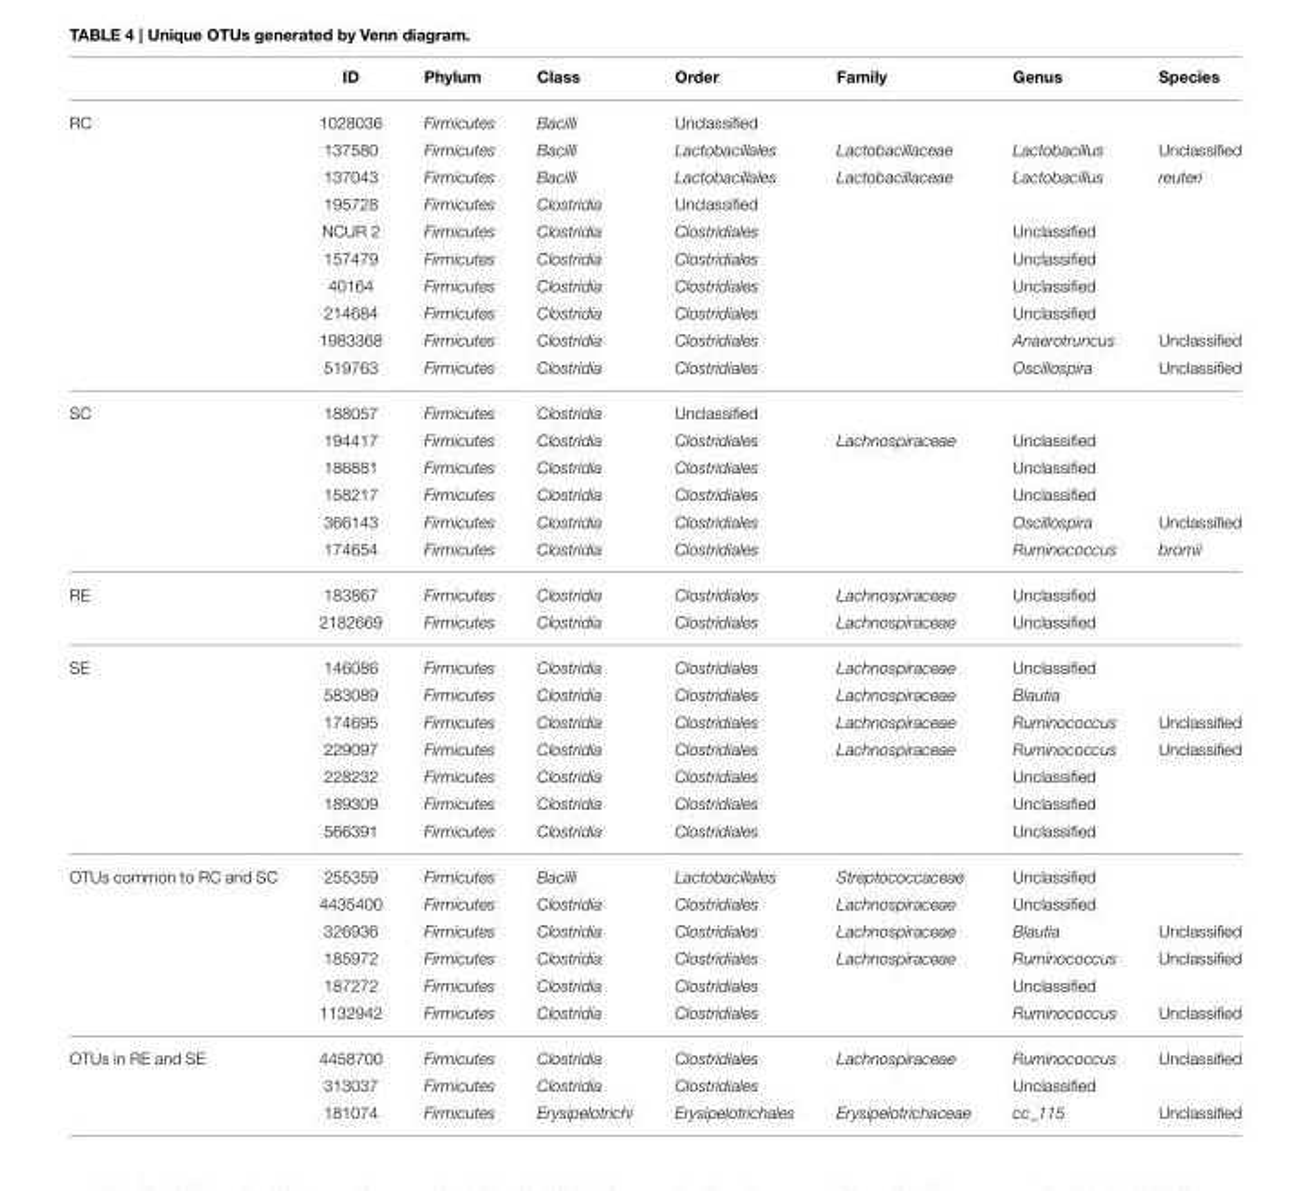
<table><thead><tr><td></td><td>ID</td><td>Phylum</td><td>Class</td><td>Order</td><td>Family</td><td>Genus</td><td>Species</td></tr></thead><tbody><tr><td rowspan="10">RC</td><td>1028036</td><td>Firmicutes</td><td>Bacilli</td><td>Unclassified</td><td></td><td></td><td></td></tr><tr><td>137580</td><td>Firmicutes</td><td>Bacilli</td><td>Lactobacillales</td><td>Lactobacillaceae</td><td>Lactobacillus</td><td>Unclassified</td></tr><tr><td>137043</td><td>Firmicutes</td><td>Bacilli</td><td>Lactobacillales</td><td>Lactobacillaceae</td><td>Lactobacillus</td><td>reuteri</td></tr><tr><td>195728</td><td>Firmicutes</td><td>Clostridia</td><td>Unclassified</td><td></td><td></td><td></td></tr><tr><td>NCUR 2</td><td>Firmicutes</td><td>Clostridia</td><td>Clostridiales</td><td></td><td>Unclassified</td><td></td></tr><tr><td>157479</td><td>Firmicutes</td><td>Clostridia</td><td>Clostridiales</td><td></td><td>Unclassified</td><td></td></tr><tr><td>40164</td><td>Firmicutes</td><td>Clostridia</td><td>Clostridiales</td><td></td><td>Unclassified</td><td></td></tr><tr><td>214684</td><td>Firmicutes</td><td>Clostridia</td><td>Clostridiales</td><td></td><td>Unclassified</td><td></td></tr><tr><td>1983368</td><td>Firmicutes</td><td>Clostridia</td><td>Clostridiales</td><td></td><td>Anaerotruncus</td><td>Unclassified</td></tr><tr><td>519763</td><td>Firmicutes</td><td>Clostridia</td><td>Clostridiales</td><td></td><td>Oscillospira</td><td>Unclassified</td></tr><tr><td rowspan="6">SC</td><td>188057</td><td>Firmicutes</td><td>Clostridia</td><td>Unclassified</td><td></td><td></td><td></td></tr><tr><td>194417</td><td>Firmicutes</td><td>Clostridia</td><td>Clostridiales</td><td>Lachnospiraceae</td><td>Unclassified</td><td></td></tr><tr><td>186881</td><td>Firmicutes</td><td>Clostridia</td><td>Clostridiales</td><td></td><td>Unclassified</td><td></td></tr><tr><td>158217</td><td>Firmicutes</td><td>Clostridia</td><td>Clostridiales</td><td></td><td>Unclassified</td><td></td></tr><tr><td>366143</td><td>Firmicutes</td><td>Clostridia</td><td>Clostridiales</td><td></td><td>Oscillospira</td><td>Unclassified</td></tr><tr><td>174654</td><td>Firmicutes</td><td>Clostridia</td><td>Clostridiales</td><td></td><td>Ruminococcus</td><td>bromii</td></tr><tr><td rowspan="2">RE</td><td>183867</td><td>Firmicutes</td><td>Clostridia</td><td>Clostridiales</td><td>Lachnospiraceae</td><td>Unclassified</td><td></td></tr><tr><td>2182669</td><td>Firmicutes</td><td>Clostridia</td><td>Clostridiales</td><td>Lachnospiraceae</td><td>Unclassified</td><td></td></tr><tr><td rowspan="7">SE</td><td>146086</td><td>Firmicutes</td><td>Clostridia</td><td>Clostridiales</td><td>Lachnospiraceae</td><td>Unclassified</td><td></td></tr><tr><td>583089</td><td>Firmicutes</td><td>Clostridia</td><td>Clostridiales</td><td>Lachnospiraceae</td><td>Blautia</td><td></td></tr><tr><td>174695</td><td>Firmicutes</td><td>Clostridia</td><td>Clostridiales</td><td>Lachnospiraceae</td><td>Ruminococcus</td><td>Unclassified</td></tr><tr><td>229097</td><td>Firmicutes</td><td>Clostridia</td><td>Clostridiales</td><td>Lachnospiraceae</td><td>Ruminococcus</td><td>Unclassified</td></tr><tr><td>228232</td><td>Firmicutes</td><td>Clostridia</td><td>Clostridiales</td><td></td><td>Unclassified</td><td></td></tr><tr><td>189309</td><td>Firmicutes</td><td>Clostridia</td><td>Clostridiales</td><td></td><td>Unclassified</td><td></td></tr><tr><td>566391</td><td>Firmicutes</td><td>Clostridia</td><td>Clostridiales</td><td></td><td>Unclassified</td><td></td></tr><tr><td rowspan="6">OTUs common to RC and SC</td><td>255359</td><td>Firmicutes</td><td>Bacilli</td><td>Lactobacillales</td><td>Streptococcaceae</td><td>Unclassified</td><td></td></tr><tr><td>4435400</td><td>Firmicutes</td><td>Clostridia</td><td>Clostridiales</td><td>Lachnospiraceae</td><td>Unclassified</td><td></td></tr><tr><td>326936</td><td>Firmicutes</td><td>Clostridia</td><td>Clostridiales</td><td>Lachnospiraceae</td><td>Blautia</td><td>Unclassified</td></tr><tr><td>185972</td><td>Firmicutes</td><td>Clostridia</td><td>Clostridiales</td><td>Lachnospiraceae</td><td>Ruminococcus</td><td>Unclassified</td></tr><tr><td>187272</td><td>Firmicutes</td><td>Clostridia</td><td>Clostridiales</td><td></td><td>Unclassified</td><td></td></tr><tr><td>1132942</td><td>Firmicutes</td><td>Clostridia</td><td>Clostridiales</td><td></td><td>Ruminococcus</td><td>Unclassified</td></tr><tr><td rowspan="3">OTUs in RE and SE</td><td>4458700</td><td>Firmicutes</td><td>Clostridia</td><td>Clostridiales</td><td>Lachnospiraceae</td><td>Ruminococcus</td><td>Unclassified</td></tr><tr><td>313037</td><td>Firmicutes</td><td>Clostridia</td><td>Clostridiales</td><td></td><td>Unclassified</td><td></td></tr><tr><td>181074</td><td>Firmicutes</td><td>Erysipelotrichi</td><td>Erysipelotrichales</td><td>Erysipelotrichaceae</td><td>cc_115</td><td>Unclassified</td></tr></tbody></table>